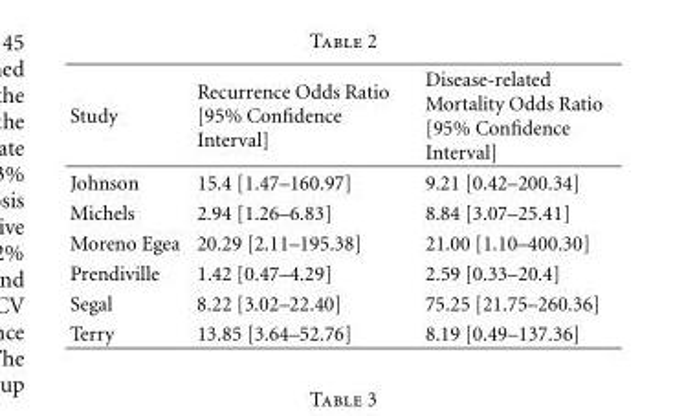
<table><thead><tr><td>Study</td><td>Recurrence Odds Ratio [95% Confidence Interval]</td><td>Disease-related Mortality Odds Ratio [95% Confidence Interval]</td></tr></thead><tbody><tr><td>Johnson</td><td>15.4 [1.47–160.97]</td><td>9.21 [0.42–200.34]</td></tr><tr><td>Michels</td><td>2.94 [1.26–6.83]</td><td>8.84 [3.07–25.41]</td></tr><tr><td>Moreno Egea</td><td>20.29 [2.11–195.38]</td><td>21.00 [1.10–400.30]</td></tr><tr><td>Prendiville</td><td>1.42 [0.47–4.29]</td><td>2.59 [0.33–20.4]</td></tr><tr><td>Segal</td><td>8.22 [3.02–22.40]</td><td>75.25 [21.75–260.36]</td></tr><tr><td>Terry</td><td>13.85 [3.64–52.76]</td><td>8.19 [0.49–137.36]</td></tr></tbody></table>